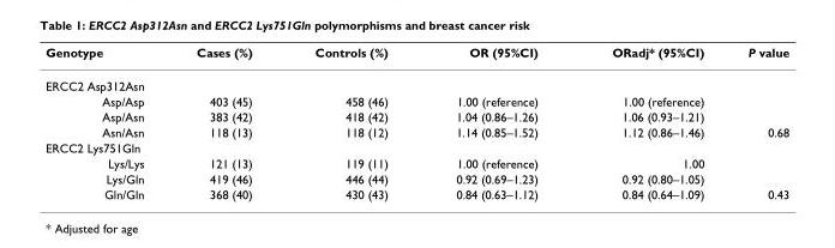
<table><thead><tr><td>Genotype</td><td>Cases (%)</td><td>Controls (%)</td><td>OR (95%CI)</td><td>ORadj* (95%CI)</td><td>P value</td></tr></thead><tbody><tr><td colspan="6">ERCC2 Asp312Asn</td></tr><tr><td>Asp/Asp</td><td>403 (45)</td><td>458 (46)</td><td>1.00 (reference)</td><td>1.00 (reference)</td><td></td></tr><tr><td>Asp/Asn</td><td>383 (42)</td><td>418 (42)</td><td>1.04 (0.86–1.26)</td><td>1.06 (0.93–1.21)</td><td></td></tr><tr><td>Asn/Asn</td><td>118 (13)</td><td>118 (12)</td><td>1.14 (0.85–1.52)</td><td>1.12 (0.86–1.46)</td><td>0.68</td></tr><tr><td colspan="6">ERCC2 Lys751Gln</td></tr><tr><td>Lys/Lys</td><td>121 (13)</td><td>119 (11)</td><td>1.00 (reference)</td><td>1.00</td><td></td></tr><tr><td>Lys/Gln</td><td>419 (46)</td><td>446 (44)</td><td>0.92 (0.69–1.23)</td><td>0.92 (0.80–1.05)</td><td></td></tr><tr><td>Gln/Gln</td><td>368 (40)</td><td>430 (43)</td><td>0.84 (0.63–1.12)</td><td>0.84 (0.64–1.09)</td><td>0.43</td></tr></tbody></table>